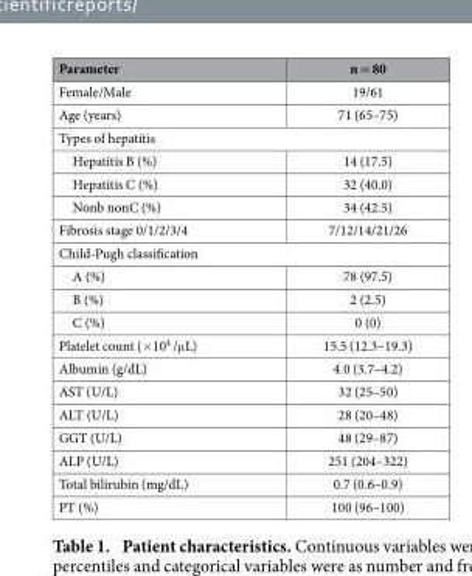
<table><thead><tr><td>Parameter</td><td>n = 80</td></tr></thead><tbody><tr><td>Female/Male</td><td>19/61</td></tr><tr><td>Age (years)</td><td>71 (65–75)</td></tr><tr><td colspan="2">Types of hepatitis</td></tr><tr><td>Hepatitis B (%)</td><td>14 (17.5)</td></tr><tr><td>Hepatitis C (%)</td><td>32 (40.0)</td></tr><tr><td>Nonb nonC (%)</td><td>34 (42.5)</td></tr><tr><td>Fibrosis stage 0/1/2/3/4</td><td>7/12/14/21/26</td></tr><tr><td colspan="2">Child-Pugh classification</td></tr><tr><td>A (%)</td><td>78 (97.5)</td></tr><tr><td>B (%)</td><td>2 (2.5)</td></tr><tr><td>C (%)</td><td>0 (0)</td></tr><tr><td>Platelet count (×10<sup>4</sup> /μL)</td><td>15.5 (12.3–19.3)</td></tr><tr><td>Albumin (g/dL)</td><td>4.0 (3.7–4.2)</td></tr><tr><td>AST (U/L)</td><td>32 (25–50)</td></tr><tr><td>ALT (U/L)</td><td>28 (20–48)</td></tr><tr><td>GGT (U/L)</td><td>48 (29–87)</td></tr><tr><td>ALP (U/L)</td><td>251 (204–322)</td></tr><tr><td>Total bilirubin (mg/dL)</td><td>0.7 (0.6–0.9)</td></tr><tr><td>PT (%)</td><td>100 (96–100)</td></tr></tbody></table>